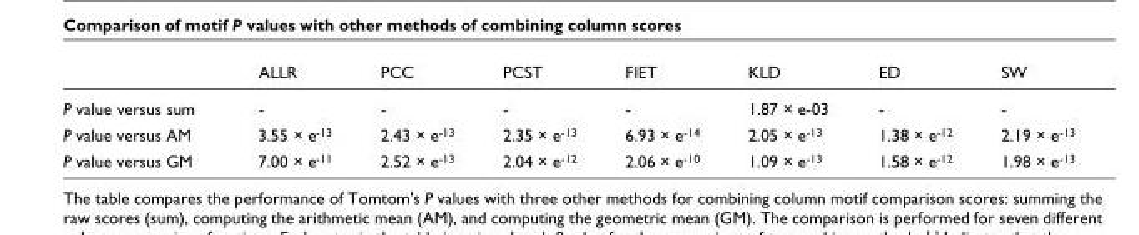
<table><thead><tr><td></td><td>ALLR</td><td>PCC</td><td>PCST</td><td>FIET</td><td>KLD</td><td>ED</td><td>SW</td></tr></thead><tbody><tr><td>P value versus sum</td><td>-</td><td>-</td><td>-</td><td>-</td><td>1.87 × e-03</td><td>-</td><td>-</td></tr><tr><td>P value versus AM</td><td>3.55 × e-13</td><td>2.43 × e-13</td><td>2.35 × e-13</td><td>6.93 × e-14</td><td>2.05 × e-13</td><td>1.38 × e-12</td><td>2.19 × e-13</td></tr><tr><td>P value versus GM</td><td>7.00 × e-11</td><td>2.52 × e-13</td><td>2.04 × e-12</td><td>2.06 × e-10</td><td>1.09 × e-13</td><td>1.58 × e-12</td><td>1.98 × e-13</td></tr></tbody></table>